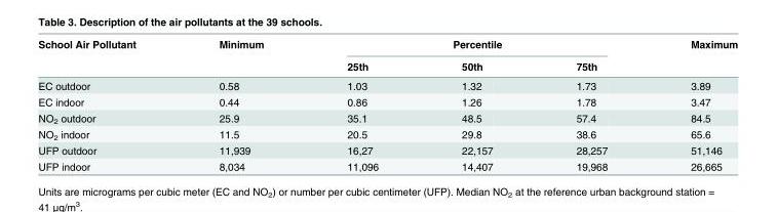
<table><thead><tr><td rowspan="2">School Air Pollutant</td><td rowspan="2">Minimum</td><td colspan="3">Percentile</td><td rowspan="2">Maximum</td></tr><tr><td>25th</td><td>50th</td><td>75th</td></tr></thead><tbody><tr><td>EC outdoor</td><td>0.58</td><td>1.03</td><td>1.32</td><td>1.73</td><td>3.89</td></tr><tr><td>EC indoor</td><td>0.44</td><td>0.86</td><td>1.26</td><td>1.78</td><td>3.47</td></tr><tr><td>NO<sub>2</sub> outdoor</td><td>25.9</td><td>35.1</td><td>48.5</td><td>57.4</td><td>84.5</td></tr><tr><td>NO<sub>2</sub> indoor</td><td>11.5</td><td>20.5</td><td>29.8</td><td>38.6</td><td>65.6</td></tr><tr><td>UFP outdoor</td><td>11,939</td><td>16,27</td><td>22,157</td><td>28,257</td><td>51,146</td></tr><tr><td>UFP indoor</td><td>8,034</td><td>11,096</td><td>14,407</td><td>19,968</td><td>26,665</td></tr></tbody></table>